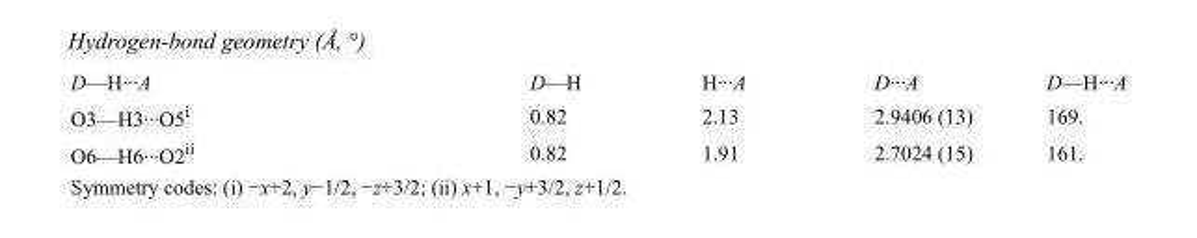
<table><tbody><tr><td>D—H···A</td><td>D—H</td><td>H···A</td><td>D···A</td><td>D—H···A</td></tr><tr><td>O3—H3···O5<sup>i</sup></td><td>0.82</td><td>2.13</td><td>2.9406 (13)</td><td>169.</td></tr><tr><td>O6—H6···O2<sup>ii</sup></td><td>0.82</td><td>1.91</td><td>2.7024 (15)</td><td>161.</td></tr></tbody></table>